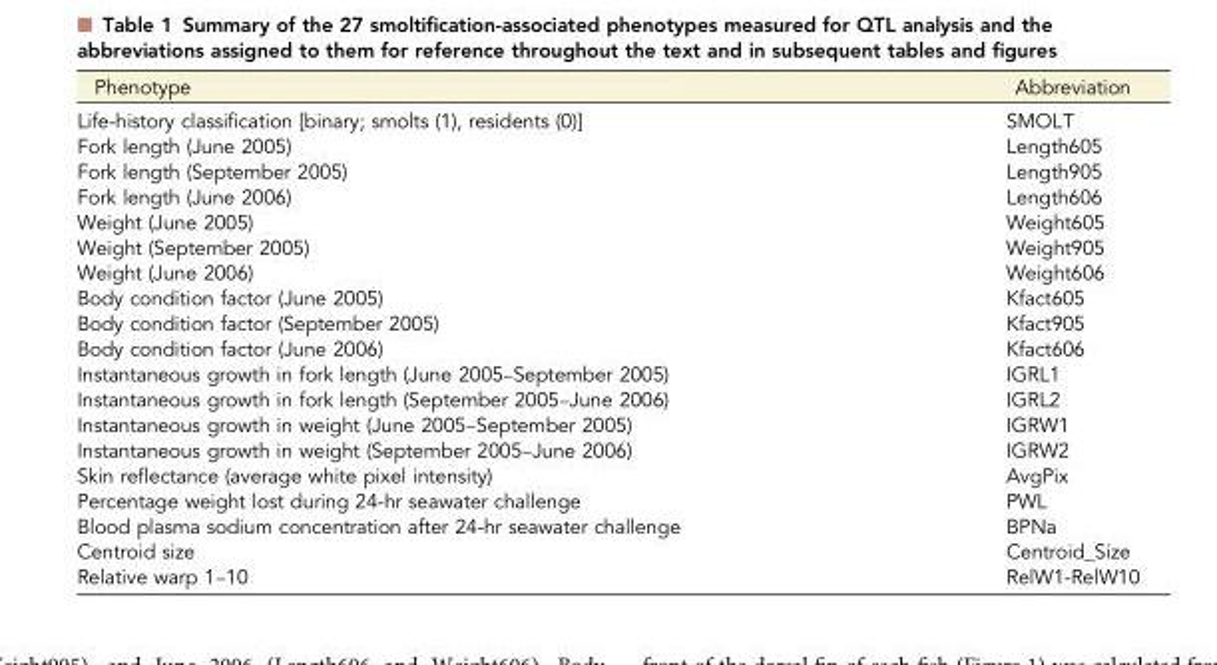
<table><thead><tr><td>Phenotype</td><td>Abbreviation</td></tr></thead><tbody><tr><td>Life-history classification [binary; smolts (1), residents (0)]</td><td>SMOLT</td></tr><tr><td>Fork length (June 2005)</td><td>Length605</td></tr><tr><td>Fork length (September 2005)</td><td>Length905</td></tr><tr><td>Fork length (June 2006)</td><td>Length606</td></tr><tr><td>Weight (June 2005)</td><td>Weight605</td></tr><tr><td>Weight (September 2005)</td><td>Weight905</td></tr><tr><td>Weight (June 2006)</td><td>Weight606</td></tr><tr><td>Body condition factor (June 2005)</td><td>Kfact605</td></tr><tr><td>Body condition factor (September 2005)</td><td>Kfact905</td></tr><tr><td>Body condition factor (June 2006)</td><td>Kfact606</td></tr><tr><td>Instantaneous growth in fork length (June 2005–September 2005)</td><td>IGRL1</td></tr><tr><td>Instantaneous growth in fork length (September 2005–June 2006)</td><td>IGRL2</td></tr><tr><td>Instantaneous growth in weight (June 2005–September 2005)</td><td>IGRW1</td></tr><tr><td>Instantaneous growth in weight (September 2005–June 2006)</td><td>IGRW2</td></tr><tr><td>Skin reflectance (average white pixel intensity)</td><td>AvgPix</td></tr><tr><td>Percentage weight lost during 24-hr seawater challenge</td><td>PWL</td></tr><tr><td>Blood plasma sodium concentration after 24-hr seawater challenge</td><td>BPNa</td></tr><tr><td>Centroid size</td><td>Centroid_Size</td></tr><tr><td>Relative warp 1–10</td><td>RelW1-RelW10</td></tr></tbody></table>